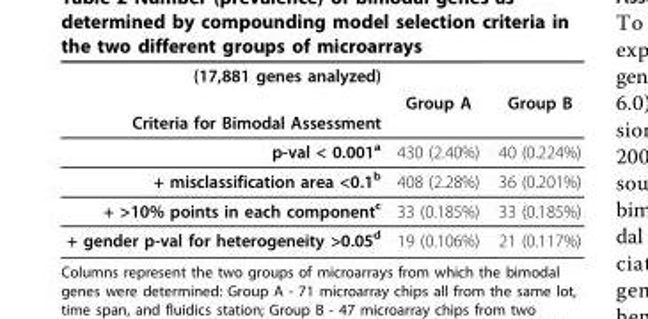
<table><thead><tr><td rowspan="2">(17,881 genes analyzed) Criteria for Bimodal Assessment</td><td rowspan="2">Group A</td><td rowspan="2">Group B</td></tr><tr></tr></thead><tbody><tr><td>p-val &lt; 0.001<sup>a</sup></td><td>430 (2.40%)</td><td>40 (0.224%)</td></tr><tr><td>+ misclassification area &lt;0.1<sup>b</sup></td><td>408 (2.28%)</td><td>36 (0.201%)</td></tr><tr><td>+ &gt;10% points in each component<sup>c</sup></td><td>33 (0.185%)</td><td>33 (0.185%)</td></tr><tr><td>+ gender p-val for heterogeneity &gt;0.05<sup>d</sup></td><td>19 (0.106%)</td><td>21 (0.117%)</td></tr></tbody></table>